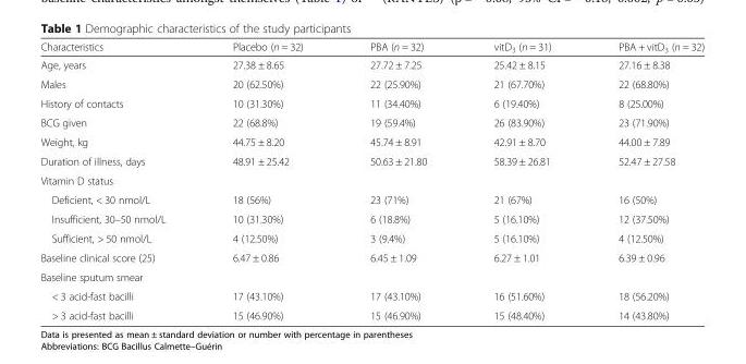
<table><thead><tr><td>Characteristics</td><td>Placebo (n = 32)</td><td>PBA (n = 32)</td><td>vitD<sub>3</sub> (n = 31)</td><td>PBA + vitD<sub>3</sub> (n = 32)</td></tr></thead><tbody><tr><td>Age, years</td><td>27.38 ± 8.65</td><td>27.72 ± 7.25</td><td>25.42 ± 8.15</td><td>27.16 ± 8.38</td></tr><tr><td>Males</td><td>20 (62.50%)</td><td>22 (25.90%)</td><td>21 (67.70%)</td><td>22 (68.80%)</td></tr><tr><td>History of contacts</td><td>10 (31.30%)</td><td>11 (34.40%)</td><td>6 (19.40%)</td><td>8 (25.00%)</td></tr><tr><td>BCG given</td><td>22 (68.8%)</td><td>19 (59.4%)</td><td>26 (83.90%)</td><td>23 (71.90%)</td></tr><tr><td>Weight, kg</td><td>44.75 ± 8.20</td><td>45.74 ± 8.91</td><td>42.91 ± 8.70</td><td>44.00 ± 7.89</td></tr><tr><td>Duration of illness, days</td><td>48.91 ± 25.42</td><td>50.63 ± 21.80</td><td>58.39 ± 26.81</td><td>52.47 ± 27.58</td></tr><tr><td colspan="5">Vitamin D status</td></tr><tr><td>Deficient, &lt; 30 nmol/L</td><td>18 (56%)</td><td>23 (71%)</td><td>21 (67%)</td><td>16 (50%)</td></tr><tr><td>Insufficient, 30–50 nmol/L</td><td>10 (31.30%)</td><td>6 (18.8%)</td><td>5 (16.10%)</td><td>12 (37.50%)</td></tr><tr><td>Sufficient, &gt; 50 nmol/L</td><td>4 (12.50%)</td><td>3 (9.4%)</td><td>5 (16.10%)</td><td>4 (12.50%)</td></tr><tr><td>Baseline clinical score (25)</td><td>6.47 ± 0.86</td><td>6.45 ± 1.09</td><td>6.27 ± 1.01</td><td>6.39 ± 0.96</td></tr><tr><td colspan="5">Baseline sputum smear</td></tr><tr><td>&lt; 3 acid-fast bacilli</td><td>17 (43.10%)</td><td>17 (43.10%)</td><td>16 (51.60%)</td><td>18 (56.20%)</td></tr><tr><td>&gt; 3 acid-fast bacilli</td><td>15 (46.90%)</td><td>15 (46.90%)</td><td>15 (48.40%)</td><td>14 (43.80%)</td></tr></tbody></table>